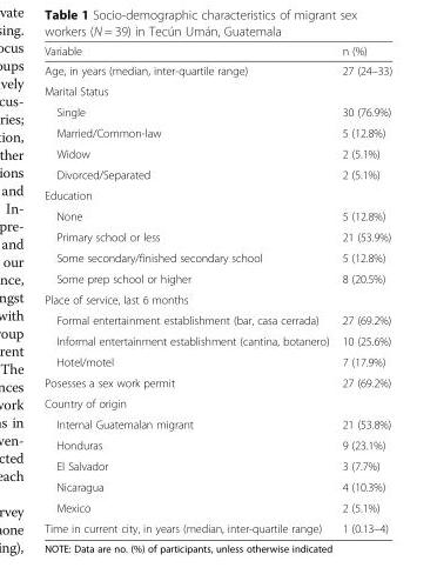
<table><thead><tr><td>Variable</td><td>n (%)</td></tr></thead><tbody><tr><td>Age, in years (median, inter-quartile range)</td><td>27 (24–33)</td></tr><tr><td colspan="2">Marital Status</td></tr><tr><td>Single</td><td>30 (76.9%)</td></tr><tr><td>Married/Common-law</td><td>5 (12.8%)</td></tr><tr><td>Widow</td><td>2 (5.1%)</td></tr><tr><td>Divorced/Separated</td><td>2 (5.1%)</td></tr><tr><td colspan="2">Education</td></tr><tr><td>None</td><td>5 (12.8%)</td></tr><tr><td>Primary school or less</td><td>21 (53.9%)</td></tr><tr><td>Some secondary/finished secondary school</td><td>5 (12.8%)</td></tr><tr><td>Some prep school or higher</td><td>8 (20.5%)</td></tr><tr><td colspan="2">Place of service, last 6 months</td></tr><tr><td>Formal entertainment establishment (bar, casa cerrada)</td><td>27 (69.2%)</td></tr><tr><td>Informal entertainment establishment (cantina, botanero)</td><td>10 (25.6%)</td></tr><tr><td>Hotel/motel</td><td>7 (17.9%)</td></tr><tr><td>Posesses a sex work permit</td><td>27 (69.2%)</td></tr><tr><td colspan="2">Country of origin</td></tr><tr><td>Internal Guatemalan migrant</td><td>21 (53.8%)</td></tr><tr><td>Honduras</td><td>9 (23.1%)</td></tr><tr><td>El Salvador</td><td>3 (7.7%)</td></tr><tr><td>Nicaragua</td><td>4 (10.3%)</td></tr><tr><td>Mexico</td><td>2 (5.1%)</td></tr><tr><td>Time in current city, in years (median, inter-quartile range)</td><td>1 (0.13–4)</td></tr></tbody></table>